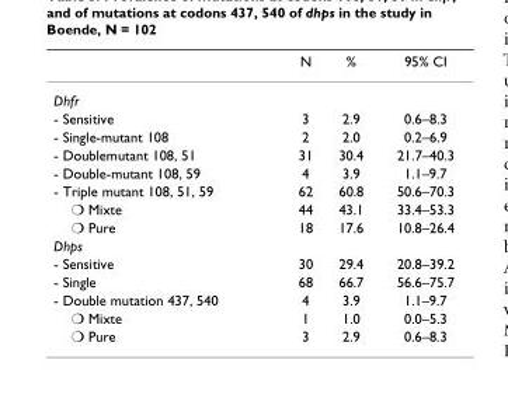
<table><thead><tr><td></td><td>N</td><td>%</td><td>95% CI</td></tr></thead><tbody><tr><td colspan="4">Dhfr</td></tr><tr><td>- Sensitive</td><td>3</td><td>2.9</td><td>0.6–8.3</td></tr><tr><td>- Single-mutant 108</td><td>2</td><td>2.0</td><td>0.2–6.9</td></tr><tr><td>- Doublemutant 108, 51</td><td>31</td><td>30.4</td><td>21.7–40.3</td></tr><tr><td>- Double-mutant 108, 59</td><td>4</td><td>3.9</td><td>1.1–9.7</td></tr><tr><td>- Triple mutant 108, 51, 59</td><td>62</td><td>60.8</td><td>50.6–70.3</td></tr><tr><td>❍ Mixte</td><td>44</td><td>43.1</td><td>33.4–53.3</td></tr><tr><td>❍ Pure</td><td>18</td><td>17.6</td><td>10.8–26.4</td></tr><tr><td colspan="4">Dhps</td></tr><tr><td>- Sensitive</td><td>30</td><td>29.4</td><td>20.8–39.2</td></tr><tr><td>- Single</td><td>68</td><td>66.7</td><td>56.6–75.7</td></tr><tr><td>- Double mutation 437, 540</td><td>4</td><td>3.9</td><td>1.1–9.7</td></tr><tr><td>❍ Mixte</td><td>1</td><td>1.0</td><td>0.0–5.3</td></tr><tr><td>❍ Pure</td><td>3</td><td>2.9</td><td>0.6–8.3</td></tr></tbody></table>